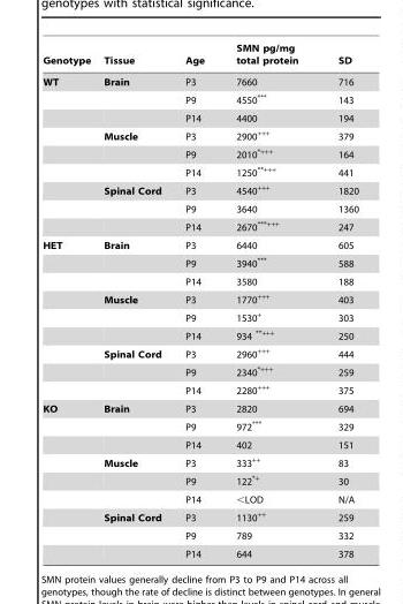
<table><thead><tr><td>Genotype</td><td>Tissue</td><td>Age</td><td>SMN pg/mg total protein</td><td>SD</td></tr></thead><tbody><tr><td rowspan="9">WT</td><td>Brain</td><td>P3</td><td>7660</td><td>716</td></tr><tr><td></td><td>P9</td><td>4550***</td><td>143</td></tr><tr><td></td><td>P14</td><td>4400</td><td>194</td></tr><tr><td>Muscle</td><td>P3</td><td>2900<sup>+++</sup></td><td>379</td></tr><tr><td></td><td>P9</td><td>2010*<sup>+++</sup></td><td>164</td></tr><tr><td></td><td>P14</td><td>1250<sup>**+++</sup></td><td>441</td></tr><tr><td>Spinal Cord</td><td>P3</td><td>4540<sup>+++</sup></td><td>1820</td></tr><tr><td></td><td>P9</td><td>3640</td><td>1360</td></tr><tr><td></td><td>P14</td><td>2670<sup>***+++</sup></td><td>247</td></tr><tr><td rowspan="9">HET</td><td>Brain</td><td>P3</td><td>6440</td><td>605</td></tr><tr><td></td><td>P9</td><td>3940***</td><td>588</td></tr><tr><td></td><td>P14</td><td>3580</td><td>188</td></tr><tr><td>Muscle</td><td>P3</td><td>1770<sup>+++</sup></td><td>403</td></tr><tr><td></td><td>P9</td><td>1530+</td><td>303</td></tr><tr><td></td><td>P14</td><td>934 <sup>**+++</sup></td><td>250</td></tr><tr><td>Spinal Cord</td><td>P3</td><td>2960<sup>+++</sup></td><td>444</td></tr><tr><td></td><td>P9</td><td>2340*<sup>+++</sup></td><td>259</td></tr><tr><td></td><td>P14</td><td>2280<sup>+++</sup></td><td>375</td></tr><tr><td rowspan="9">KO</td><td>Brain</td><td>P3</td><td>2820</td><td>694</td></tr><tr><td></td><td>P9</td><td>972***</td><td>329</td></tr><tr><td></td><td>P14</td><td>402</td><td>151</td></tr><tr><td>Muscle</td><td>P3</td><td>333<sup>++</sup></td><td>83</td></tr><tr><td></td><td>P9</td><td>122*+</td><td>30</td></tr><tr><td></td><td>P14</td><td>&lt;LOD</td><td>N/A</td></tr><tr><td>Spinal Cord</td><td>P3</td><td>1130<sup>++</sup></td><td>259</td></tr><tr><td></td><td>P9</td><td>789</td><td>332</td></tr><tr><td></td><td>P14</td><td>644</td><td>378</td></tr></tbody></table>